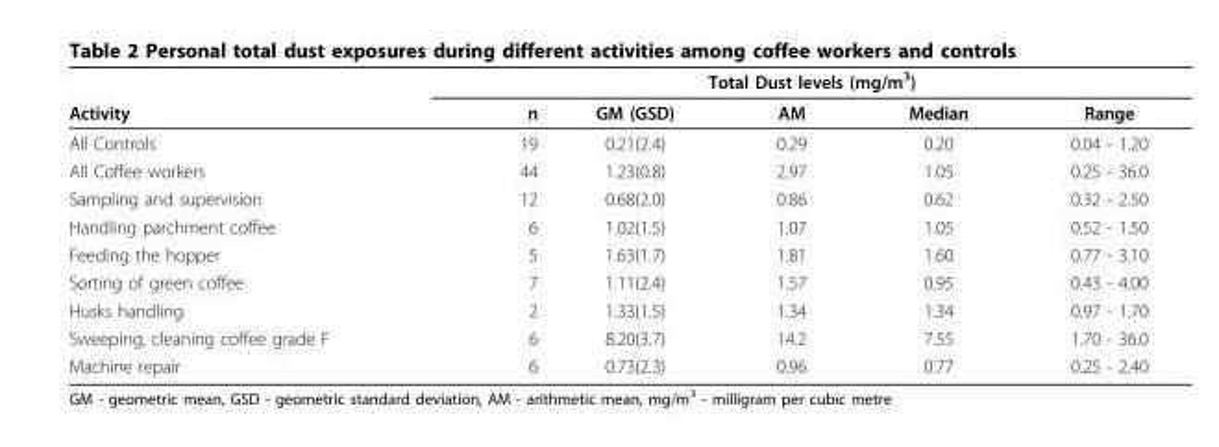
<table><thead><tr><td rowspan="2">Activity</td><td colspan="5">Total Dust levels (mg/m<sup>3</sup>)</td></tr><tr><td>n</td><td>GM (GSD)</td><td>AM</td><td>Median</td><td>Range</td></tr></thead><tbody><tr><td>All Controls</td><td>19</td><td>0.21(2.4)</td><td>0.29</td><td>0.20</td><td>0.04 - 1.20</td></tr><tr><td>All Coffee workers</td><td>44</td><td>1.23(0.8)</td><td>2.97</td><td>1.05</td><td>0.25 - 36.0</td></tr><tr><td>Sampling and supervision</td><td>12</td><td>0.68(2.0)</td><td>0.86</td><td>0.62</td><td>0.32 - 2.50</td></tr><tr><td>Handling parchment coffee</td><td>6</td><td>1.02(1.5)</td><td>1.07</td><td>1.05</td><td>0.52 - 1.50</td></tr><tr><td>Feeding the hopper</td><td>5</td><td>1.63(1.7)</td><td>1.81</td><td>1.60</td><td>0.77 - 3.10</td></tr><tr><td>Sorting of green coffee</td><td>7</td><td>1.11(2.4)</td><td>1.57</td><td>0.95</td><td>0.43 - 4.00</td></tr><tr><td>Husks handling</td><td>2</td><td>1.33(1.5)</td><td>1.34</td><td>1.34</td><td>0.97 - 1.70</td></tr><tr><td>Sweeping, cleaning coffee grade F</td><td>6</td><td>8.20(3.7)</td><td>14.2</td><td>7.55</td><td>1.70 - 36.0</td></tr><tr><td>Machine repair</td><td>6</td><td>0.73(2.3)</td><td>0.96</td><td>0.77</td><td>0.25 - 2.40</td></tr></tbody></table>